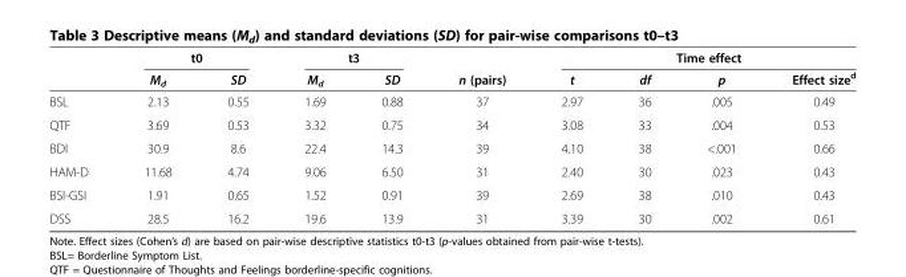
<table><thead><tr><td rowspan="2"></td><td colspan="2">t0</td><td colspan="2">t3</td><td rowspan="2">n (pairs)</td><td colspan="4">Time effect</td></tr><tr><td>M<sub>d</sub></td><td>SD</td><td>M<sub>d</sub></td><td>SD</td><td>t</td><td>df</td><td>p</td><td>Effect size<sup>d</sup></td></tr></thead><tbody><tr><td>BSL</td><td>2.13</td><td>0.55</td><td>1.69</td><td>0.88</td><td>37</td><td>2.97</td><td>36</td><td>.005</td><td>0.49</td></tr><tr><td>QTF</td><td>3.69</td><td>0.53</td><td>3.32</td><td>0.75</td><td>34</td><td>3.08</td><td>33</td><td>.004</td><td>0.53</td></tr><tr><td>BDI</td><td>30.9</td><td>8.6</td><td>22.4</td><td>14.3</td><td>39</td><td>4.10</td><td>38</td><td>&lt;.001</td><td>0.66</td></tr><tr><td>HAM-D</td><td>11.68</td><td>4.74</td><td>9.06</td><td>6.50</td><td>31</td><td>2.40</td><td>30</td><td>.023</td><td>0.43</td></tr><tr><td>BSI-GSI</td><td>1.91</td><td>0.65</td><td>1.52</td><td>0.91</td><td>39</td><td>2.69</td><td>38</td><td>.010</td><td>0.43</td></tr><tr><td>DSS</td><td>28.5</td><td>16.2</td><td>19.6</td><td>13.9</td><td>31</td><td>3.39</td><td>30</td><td>.002</td><td>0.61</td></tr></tbody></table>